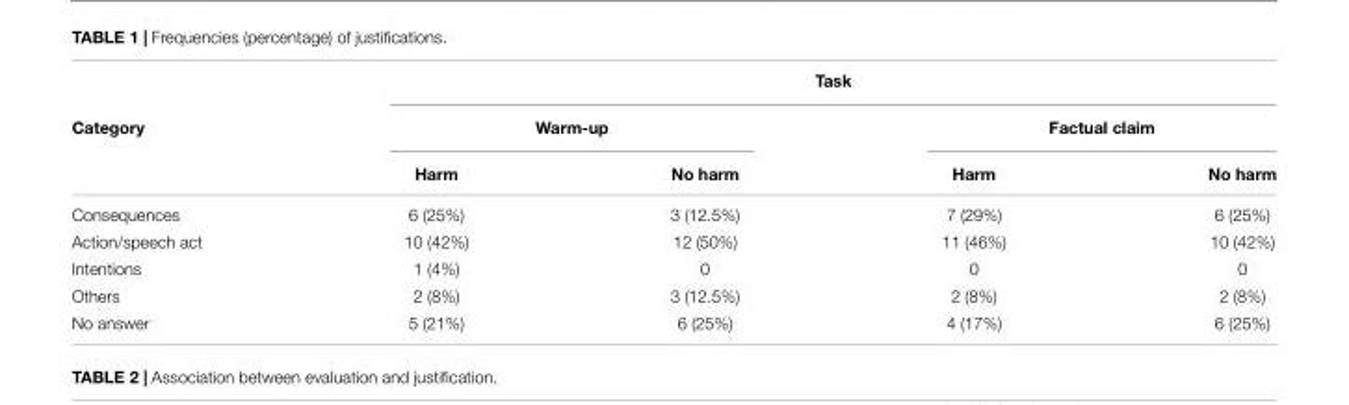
<table><thead><tr><td rowspan="3">Category</td><td colspan="4">Task</td></tr><tr><td colspan="2">Warm-up</td><td colspan="2">Factual claim</td></tr><tr><td>Harm</td><td>No harm</td><td>Harm</td><td>No harm</td></tr></thead><tbody><tr><td>Consequences</td><td>6 (25%)</td><td>3 (12.5%)</td><td>7 (29%)</td><td>6 (25%)</td></tr><tr><td>Action/speech act</td><td>10 (42%)</td><td>12 (50%)</td><td>11 (46%)</td><td>10 (42%)</td></tr><tr><td>Intentions</td><td>1 (4%)</td><td>0</td><td>0</td><td>0</td></tr><tr><td>Others</td><td>2 (8%)</td><td>3 (12.5%)</td><td>2 (8%)</td><td>2 (8%)</td></tr><tr><td>No answer</td><td>5 (21%)</td><td>6 (25%)</td><td>4 (17%)</td><td>6 (25%)</td></tr></tbody></table>